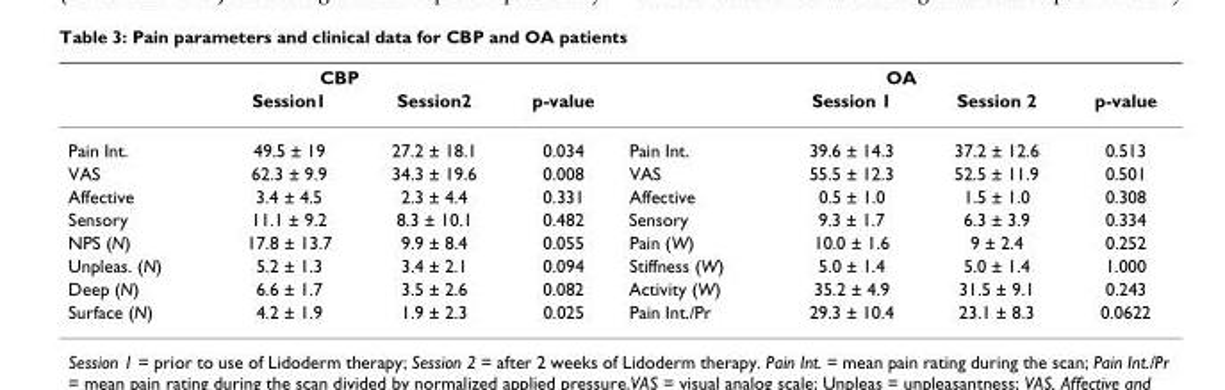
<table><thead><tr><td colspan="4">CBP</td><td colspan="4">OA</td></tr><tr><td></td><td>Session1</td><td>Session2</td><td>p-value</td><td></td><td>Session 1</td><td>Session 2</td><td>p-value</td></tr></thead><tbody><tr><td>Pain Int.</td><td>49.5 ± 19</td><td>27.2 ± 18.1</td><td>0.034</td><td>Pain Int.</td><td>39.6 ± 14.3</td><td>37.2 ± 12.6</td><td>0.513</td></tr><tr><td>VAS</td><td>62.3 ± 9.9</td><td>34.3 ± 19.6</td><td>0.008</td><td>VAS</td><td>55.5 ± 12.3</td><td>52.5 ± 11.9</td><td>0.501</td></tr><tr><td>Affective</td><td>3.4 ± 4.5</td><td>2.3 ± 4.4</td><td>0.331</td><td>Affective</td><td>0.5 ± 1.0</td><td>1.5 ± 1.0</td><td>0.308</td></tr><tr><td>Sensory</td><td>11.1 ± 9.2</td><td>8.3 ± 10.1</td><td>0.482</td><td>Sensory</td><td>9.3 ± 1.7</td><td>6.3 ± 3.9</td><td>0.334</td></tr><tr><td>NPS (N)</td><td>17.8 ± 13.7</td><td>9.9 ± 8.4</td><td>0.055</td><td>Pain (W)</td><td>10.0 ± 1.6</td><td>9 ± 2.4</td><td>0.252</td></tr><tr><td>Unpleas. (N)</td><td>5.2 ± 1.3</td><td>3.4 ± 2.1</td><td>0.094</td><td>Stiffness (W)</td><td>5.0 ± 1.4</td><td>5.0 ± 1.4</td><td>1.000</td></tr><tr><td>Deep (N)</td><td>6.6 ± 1.7</td><td>3.5 ± 2.6</td><td>0.082</td><td>Activity (W)</td><td>35.2 ± 4.9</td><td>31.5 ± 9.1</td><td>0.243</td></tr><tr><td>Surface (N)</td><td>4.2 ± 1.9</td><td>1.9 ± 2.3</td><td>0.025</td><td>Pain Int./Pr</td><td>29.3 ± 10.4</td><td>23.1 ± 8.3</td><td>0.0622</td></tr></tbody></table>